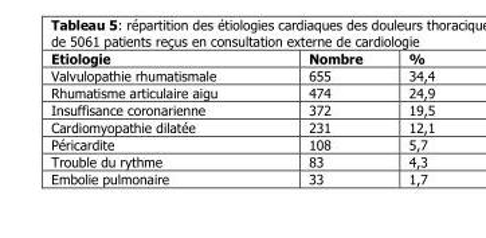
<table><thead><tr><td>Etiologie</td><td>Nombre</td><td>%</td></tr></thead><tbody><tr><td>Valvulopathie rhumatismale</td><td>655</td><td>34,4</td></tr><tr><td>Rhumatisme articulaire aigu</td><td>474</td><td>24,9</td></tr><tr><td>Insuffisance coronarienne</td><td>372</td><td>19,5</td></tr><tr><td>Cardiomyopathie dilatée</td><td>231</td><td>12,1</td></tr><tr><td>Péricardite</td><td>108</td><td>5,7</td></tr><tr><td>Trouble du rythme</td><td>83</td><td>4,3</td></tr><tr><td>Embolie pulmonaire</td><td>33</td><td>1,7</td></tr></tbody></table>